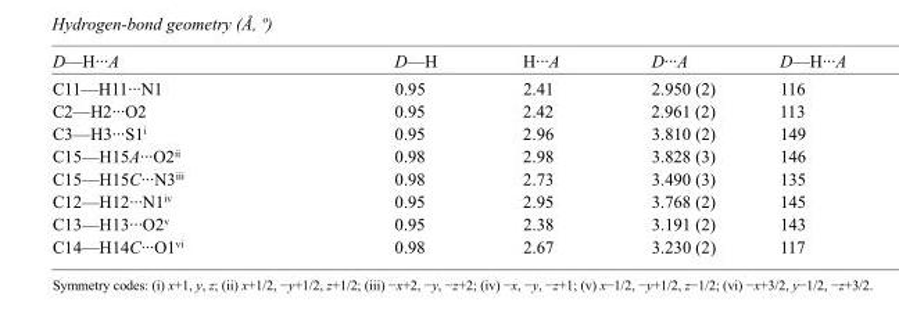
<table><tbody><tr><td>D—H···A</td><td>D—H</td><td>H···A</td><td>D···A</td><td>D—H···A</td></tr><tr><td>C11—H11···N1</td><td>0.95</td><td>2.41</td><td>2.950 (2)</td><td>116</td></tr><tr><td>C2—H2···O2</td><td>0.95</td><td>2.42</td><td>2.961 (2)</td><td>113</td></tr><tr><td>C3—H3···S1<sup>i</sup></td><td>0.95</td><td>2.96</td><td>3.810 (2)</td><td>149</td></tr><tr><td>C15—H15A···O2<sup>ii</sup></td><td>0.98</td><td>2.98</td><td>3.828 (3)</td><td>146</td></tr><tr><td>C15—H15C···N3<sup>iii</sup></td><td>0.98</td><td>2.73</td><td>3.490 (3)</td><td>135</td></tr><tr><td>C12—H12···N1<sup>iv</sup></td><td>0.95</td><td>2.95</td><td>3.768 (2)</td><td>145</td></tr><tr><td>C13—H13···O2<sup>v</sup></td><td>0.95</td><td>2.38</td><td>3.191 (2)</td><td>143</td></tr><tr><td>C14—H14C···O1<sup>vi</sup></td><td>0.98</td><td>2.67</td><td>3.230 (2)</td><td>117</td></tr></tbody></table>